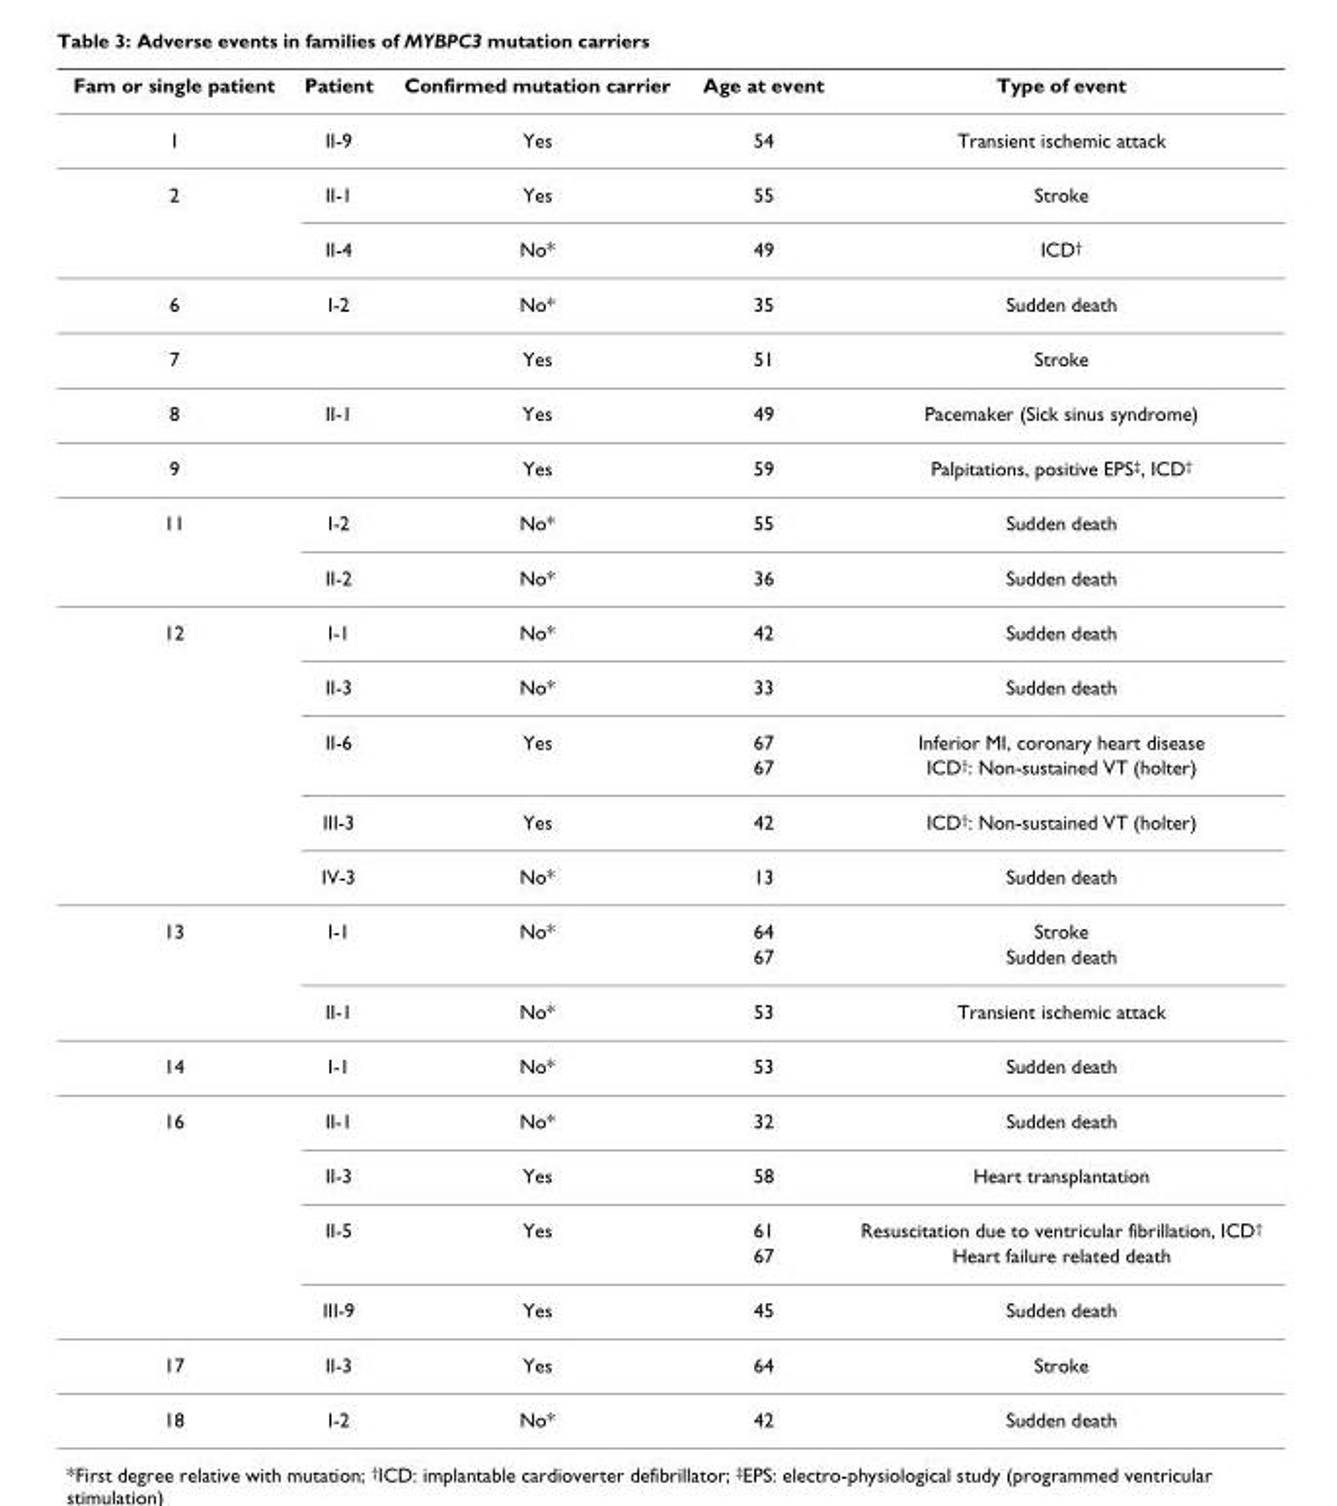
<table><thead><tr><td>Fam or single patient</td><td>Patient</td><td>Confirmed mutation carrier</td><td>Age at event</td><td>Type of event</td></tr></thead><tbody><tr><td>1</td><td>II-9</td><td>Yes</td><td>54</td><td>Transient ischemic attack</td></tr><tr><td rowspan="2">2</td><td>II-1</td><td>Yes</td><td>55</td><td>Stroke</td></tr><tr><td>II-4</td><td>No*</td><td>49</td><td>ICD†</td></tr><tr><td>6</td><td>I-2</td><td>No*</td><td>35</td><td>Sudden death</td></tr><tr><td>7</td><td></td><td>Yes</td><td>51</td><td>Stroke</td></tr><tr><td>8</td><td>II-1</td><td>Yes</td><td>49</td><td>Pacemaker (Sick sinus syndrome)</td></tr><tr><td>9</td><td></td><td>Yes</td><td>59</td><td>Palpitations, positive EPS‡, ICD†</td></tr><tr><td rowspan="2">11</td><td>I-2</td><td>No*</td><td>55</td><td>Sudden death</td></tr><tr><td>II-2</td><td>No*</td><td>36</td><td>Sudden death</td></tr><tr><td rowspan="6">12</td><td>I-1</td><td>No*</td><td>42</td><td>Sudden death</td></tr><tr><td>II-3</td><td>No*</td><td>33</td><td>Sudden death</td></tr><tr><td>II-6</td><td>Yes</td><td>67</td><td>Inferior MI, coronary heart disease</td></tr><tr><td></td><td></td><td>67</td><td>ICD†: Non-sustained VT (holter)</td></tr><tr><td>III-3</td><td>Yes</td><td>42</td><td>ICD†: Non-sustained VT (holter)</td></tr><tr><td>IV-3</td><td>No*</td><td>13</td><td>Sudden death</td></tr><tr><td rowspan="3">13</td><td>I-1</td><td>No*</td><td>64</td><td>Stroke</td></tr><tr><td></td><td></td><td>67</td><td>Sudden death</td></tr><tr><td>II-1</td><td>No*</td><td>53</td><td>Transient ischemic attack</td></tr><tr><td>14</td><td>I-1</td><td>No*</td><td>53</td><td>Sudden death</td></tr><tr><td rowspan="5">16</td><td>II-1</td><td>No*</td><td>32</td><td>Sudden death</td></tr><tr><td>II-3</td><td>Yes</td><td>58</td><td>Heart transplantation</td></tr><tr><td>II-5</td><td>Yes</td><td>61</td><td>Resuscitation due to ventricular fibrillation, ICD†</td></tr><tr><td></td><td></td><td>67</td><td>Heart failure related death</td></tr><tr><td>III-9</td><td>Yes</td><td>45</td><td>Sudden death</td></tr><tr><td>17</td><td>II-3</td><td>Yes</td><td>64</td><td>Stroke</td></tr><tr><td>18</td><td>I-2</td><td>No*</td><td>42</td><td>Sudden death</td></tr></tbody></table>